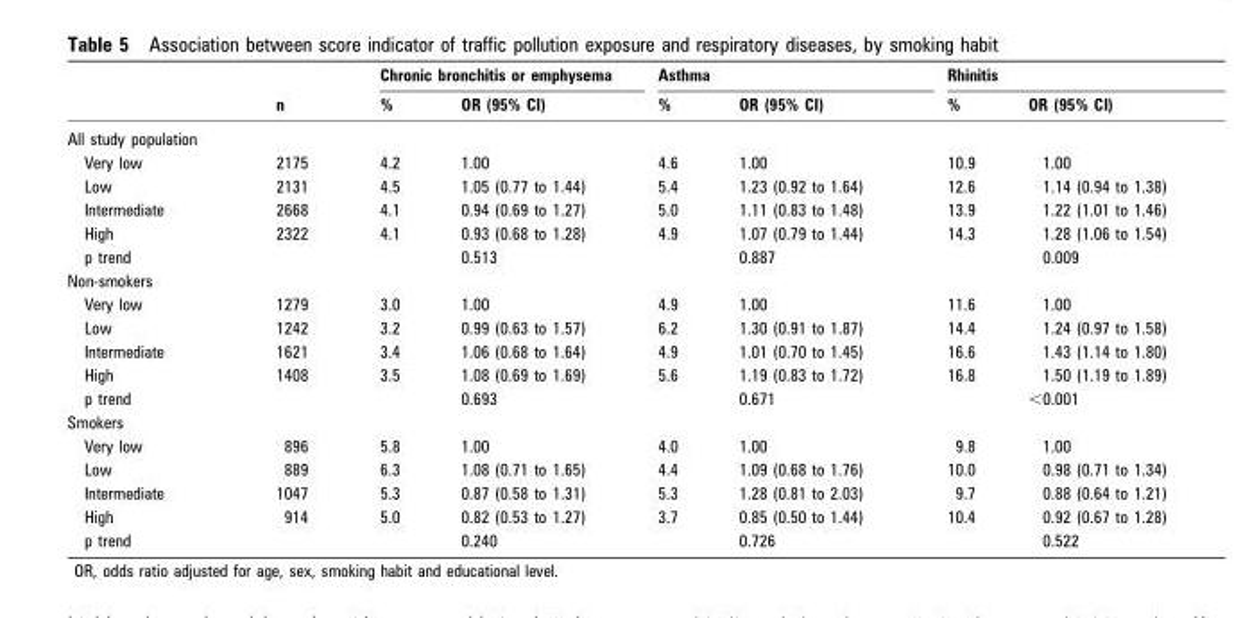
<table><thead><tr><td rowspan="2"></td><td rowspan="2">n</td><td colspan="2">Chronic bronchitis or emphysema</td><td colspan="2">Asthma</td><td colspan="2">Rhinitis</td></tr><tr><td>%</td><td>OR (95% CI)</td><td>%</td><td>OR (95% CI)</td><td>%</td><td>OR (95% CI)</td></tr></thead><tbody><tr><td colspan="8">All study population</td></tr><tr><td>Very low</td><td>2175</td><td>4.2</td><td>1.00</td><td>4.6</td><td>1.00</td><td>10.9</td><td>1.00</td></tr><tr><td>Low</td><td>2131</td><td>4.5</td><td>1.05 (0.77 to 1.44)</td><td>5.4</td><td>1.23 (0.92 to 1.64)</td><td>12.6</td><td>1.14 (0.94 to 1.38)</td></tr><tr><td>Intermediate</td><td>2668</td><td>4.1</td><td>0.94 (0.69 to 1.27)</td><td>5.0</td><td>1.11 (0.83 to 1.48)</td><td>13.9</td><td>1.22 (1.01 to 1.46)</td></tr><tr><td>High</td><td>2322</td><td>4.1</td><td>0.93 (0.68 to 1.28)</td><td>4.9</td><td>1.07 (0.79 to 1.44)</td><td>14.3</td><td>1.28 (1.06 to 1.54)</td></tr><tr><td>p trend</td><td></td><td></td><td>0.513</td><td></td><td>0.887</td><td></td><td>0.009</td></tr><tr><td colspan="8">Non-smokers</td></tr><tr><td>Very low</td><td>1279</td><td>3.0</td><td>1.00</td><td>4.9</td><td>1.00</td><td>11.6</td><td>1.00</td></tr><tr><td>Low</td><td>1242</td><td>3.2</td><td>0.99 (0.63 to 1.57)</td><td>6.2</td><td>1.30 (0.91 to 1.87)</td><td>14.4</td><td>1.24 (0.97 to 1.58)</td></tr><tr><td>Intermediate</td><td>1621</td><td>3.4</td><td>1.06 (0.68 to 1.64)</td><td>4.9</td><td>1.01 (0.70 to 1.45)</td><td>16.6</td><td>1.43 (1.14 to 1.80)</td></tr><tr><td>High</td><td>1408</td><td>3.5</td><td>1.08 (0.69 to 1.69)</td><td>5.6</td><td>1.19 (0.83 to 1.72)</td><td>16.8</td><td>1.50 (1.19 to 1.89)</td></tr><tr><td>p trend</td><td></td><td></td><td>0.693</td><td></td><td>0.671</td><td></td><td>&lt;0.001</td></tr><tr><td colspan="8">Smokers</td></tr><tr><td>Very low</td><td>896</td><td>5.8</td><td>1.00</td><td>4.0</td><td>1.00</td><td>9.8</td><td>1.00</td></tr><tr><td>Low</td><td>889</td><td>6.3</td><td>1.08 (0.71 to 1.65)</td><td>4.4</td><td>1.09 (0.68 to 1.76)</td><td>10.0</td><td>0.98 (0.71 to 1.34)</td></tr><tr><td>Intermediate</td><td>1047</td><td>5.3</td><td>0.87 (0.58 to 1.31)</td><td>5.3</td><td>1.28 (0.81 to 2.03)</td><td>9.7</td><td>0.88 (0.64 to 1.21)</td></tr><tr><td>High</td><td>914</td><td>5.0</td><td>0.82 (0.53 to 1.27)</td><td>3.7</td><td>0.85 (0.50 to 1.44)</td><td>10.4</td><td>0.92 (0.67 to 1.28)</td></tr><tr><td>p trend</td><td></td><td></td><td>0.240</td><td></td><td>0.726</td><td></td><td>0.522</td></tr></tbody></table>